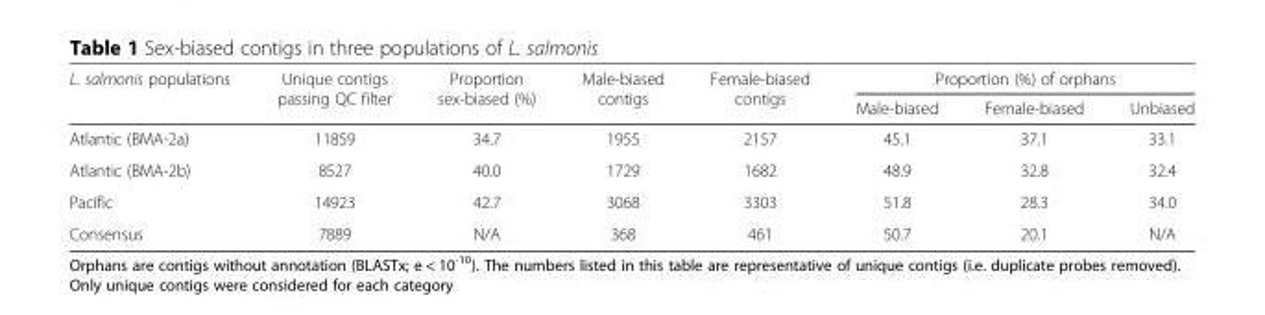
<table><thead><tr><td rowspan="2">L. salmonis populations</td><td rowspan="2">Unique contigs passing QC filter</td><td rowspan="2">Proportion sex-biased (%)</td><td rowspan="2">Male-biased contigs</td><td rowspan="2">Female-biased contigs</td><td colspan="3">Proportion (%) of orphans</td></tr><tr><td>Male-biased</td><td>Female-biased</td><td>Unbiased</td></tr></thead><tbody><tr><td>Atlantic (BMA-2a)</td><td>11859</td><td>34.7</td><td>1955</td><td>2157</td><td>45.1</td><td>37.1</td><td>33.1</td></tr><tr><td>Atlantic (BMA-2b)</td><td>8527</td><td>40.0</td><td>1729</td><td>1682</td><td>48.9</td><td>32.8</td><td>32.4</td></tr><tr><td>Pacific</td><td>14923</td><td>42.7</td><td>3068</td><td>3303</td><td>51.8</td><td>28.3</td><td>34.0</td></tr><tr><td>Consensus</td><td>7889</td><td>N/A</td><td>368</td><td>461</td><td>50.7</td><td>20.1</td><td>N/A</td></tr></tbody></table>